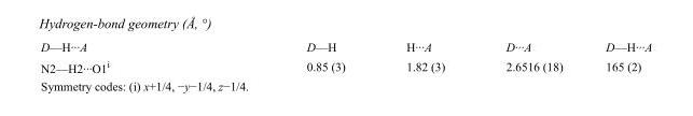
<table><tbody><tr><td>D—H···A</td><td>D—H</td><td>H···A</td><td>D···A</td><td>D—H···A</td></tr><tr><td>N2—H2···O1<sup>i</sup></td><td>0.85 (3)</td><td>1.82 (3)</td><td>2.6516 (18)</td><td>165 (2)</td></tr></tbody></table>